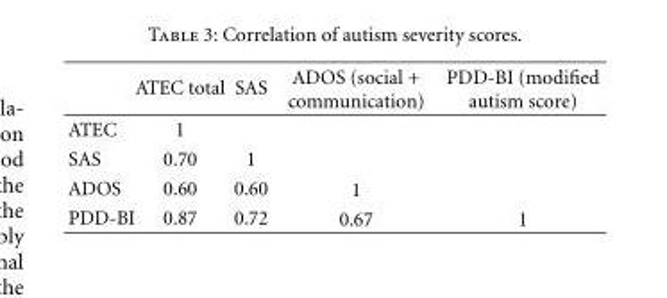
<table><thead><tr><td></td><td>ATEC total</td><td>SAS</td><td>ADOS (social + communication)</td><td>PDD-BI (modified autism score)</td></tr></thead><tbody><tr><td>ATEC</td><td>1</td><td></td><td></td><td></td></tr><tr><td>SAS</td><td>0.70</td><td>1</td><td></td><td></td></tr><tr><td>ADOS</td><td>0.60</td><td>0.60</td><td>1</td><td></td></tr><tr><td>PDD-BI</td><td>0.87</td><td>0.72</td><td>0.67</td><td>1</td></tr></tbody></table>